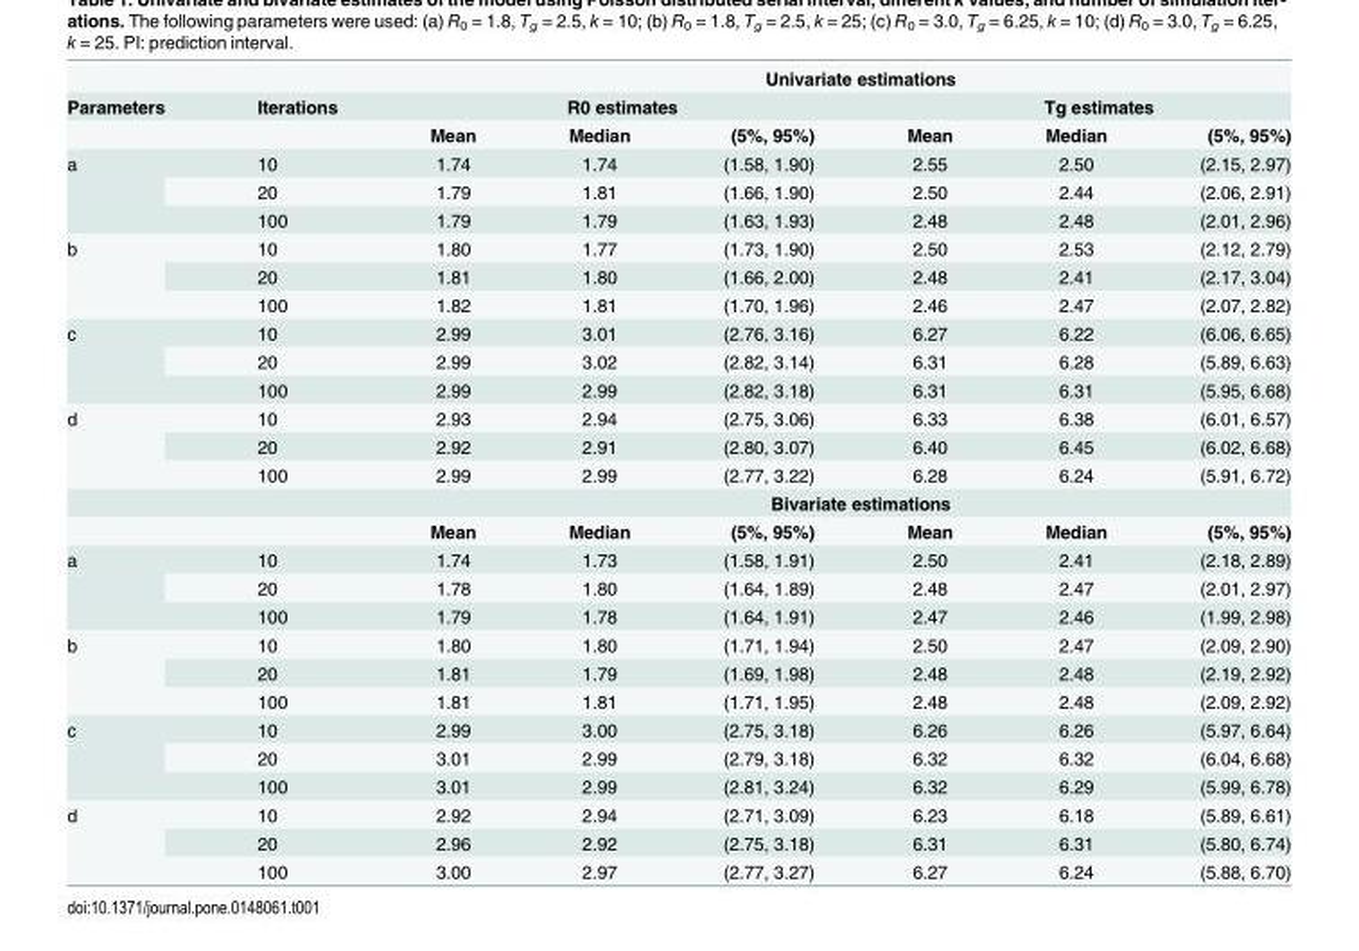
<table><thead><tr><td rowspan="3">Parameters</td><td rowspan="3">Iterations</td><td colspan="6">Univariate estimations</td></tr><tr><td colspan="3">R0 estimates</td><td colspan="3">Tg estimates</td></tr><tr><td>Mean</td><td>Median</td><td>(5%, 95%)</td><td>Mean</td><td>Median</td><td>(5%, 95%)</td></tr></thead><tbody><tr><td rowspan="3">a</td><td>10</td><td>1.74</td><td>1.74</td><td>(1.58, 1.90)</td><td>2.55</td><td>2.50</td><td>(2.15, 2.97)</td></tr><tr><td>20</td><td>1.79</td><td>1.81</td><td>(1.66, 1.90)</td><td>2.50</td><td>2.44</td><td>(2.06, 2.91)</td></tr><tr><td>100</td><td>1.79</td><td>1.79</td><td>(1.63, 1.93)</td><td>2.48</td><td>2.48</td><td>(2.01, 2.96)</td></tr><tr><td rowspan="3">b</td><td>10</td><td>1.80</td><td>1.77</td><td>(1.73, 1.90)</td><td>2.50</td><td>2.53</td><td>(2.12, 2.79)</td></tr><tr><td>20</td><td>1.81</td><td>1.80</td><td>(1.66, 2.00)</td><td>2.48</td><td>2.41</td><td>(2.17, 3.04)</td></tr><tr><td>100</td><td>1.82</td><td>1.81</td><td>(1.70, 1.96)</td><td>2.46</td><td>2.47</td><td>(2.07, 2.82)</td></tr><tr><td rowspan="3">c</td><td>10</td><td>2.99</td><td>3.01</td><td>(2.76, 3.16)</td><td>6.27</td><td>6.22</td><td>(6.06, 6.65)</td></tr><tr><td>20</td><td>2.99</td><td>3.02</td><td>(2.82, 3.14)</td><td>6.31</td><td>6.28</td><td>(5.89, 6.63)</td></tr><tr><td>100</td><td>2.99</td><td>2.99</td><td>(2.82, 3.18)</td><td>6.31</td><td>6.31</td><td>(5.95, 6.68)</td></tr><tr><td rowspan="5">d</td><td>10</td><td>2.93</td><td>2.94</td><td>(2.75, 3.06)</td><td>6.33</td><td>6.38</td><td>(6.01, 6.57)</td></tr><tr><td>20</td><td>2.92</td><td>2.91</td><td>(2.80, 3.07)</td><td>6.40</td><td>6.45</td><td>(6.02, 6.68)</td></tr><tr><td>100</td><td>2.99</td><td>2.99</td><td>(2.77, 3.22)</td><td>6.28</td><td>6.24</td><td>(5.91, 6.72)</td></tr><tr><td></td><td colspan="6">Bivariate estimations</td></tr><tr><td></td><td>Mean</td><td>Median</td><td>(5%, 95%)</td><td>Mean</td><td>Median</td><td>(5%, 95%)</td></tr><tr><td rowspan="3">a</td><td>10</td><td>1.74</td><td>1.73</td><td>(1.58, 1.91)</td><td>2.50</td><td>2.41</td><td>(2.18, 2.89)</td></tr><tr><td>20</td><td>1.78</td><td>1.80</td><td>(1.64, 1.89)</td><td>2.48</td><td>2.47</td><td>(2.01, 2.97)</td></tr><tr><td>100</td><td>1.79</td><td>1.78</td><td>(1.64, 1.91)</td><td>2.47</td><td>2.46</td><td>(1.99, 2.98)</td></tr><tr><td rowspan="3">b</td><td>10</td><td>1.80</td><td>1.80</td><td>(1.71, 1.94)</td><td>2.50</td><td>2.47</td><td>(2.09, 2.90)</td></tr><tr><td>20</td><td>1.81</td><td>1.79</td><td>(1.69, 1.98)</td><td>2.48</td><td>2.48</td><td>(2.19, 2.92)</td></tr><tr><td>100</td><td>1.81</td><td>1.81</td><td>(1.71, 1.95)</td><td>2.48</td><td>2.48</td><td>(2.09, 2.92)</td></tr><tr><td rowspan="3">c</td><td>10</td><td>2.99</td><td>3.00</td><td>(2.75, 3.18)</td><td>6.26</td><td>6.26</td><td>(5.97, 6.64)</td></tr><tr><td>20</td><td>3.01</td><td>2.99</td><td>(2.79, 3.18)</td><td>6.32</td><td>6.32</td><td>(6.04, 6.68)</td></tr><tr><td>100</td><td>3.01</td><td>2.99</td><td>(2.81, 3.24)</td><td>6.32</td><td>6.29</td><td>(5.99, 6.78)</td></tr><tr><td rowspan="3">d</td><td>10</td><td>2.92</td><td>2.94</td><td>(2.71, 3.09)</td><td>6.23</td><td>6.18</td><td>(5.89, 6.61)</td></tr><tr><td>20</td><td>2.96</td><td>2.92</td><td>(2.75, 3.18)</td><td>6.31</td><td>6.31</td><td>(5.80, 6.74)</td></tr><tr><td>100</td><td>3.00</td><td>2.97</td><td>(2.77, 3.27)</td><td>6.27</td><td>6.24</td><td>(5.88, 6.70)</td></tr></tbody></table>